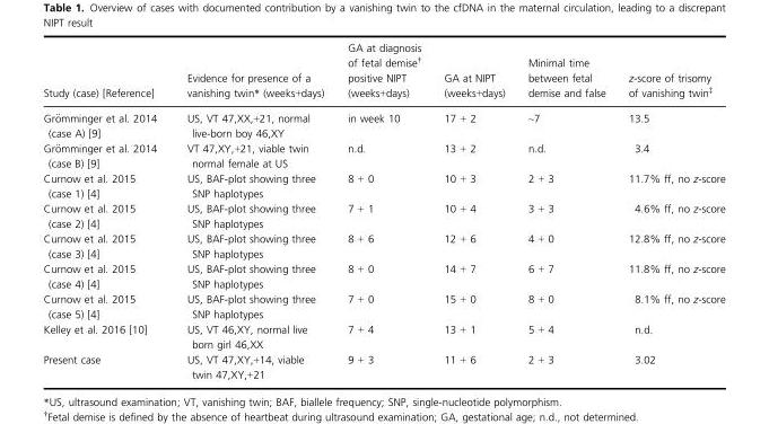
<table><thead><tr><td>Study (case) [Reference]</td><td>Evidence for presence of a vanishing twin* (weeks+days)</td><td>GA at diagnosis of fetal demise† positive NIPT (weeks+days)</td><td>GA at NIPT (weeks+days)</td><td>Minimal time between fetal demise and false</td><td>z-score of trisomy of vanishing twin‡</td></tr></thead><tbody><tr><td>Gr€omminger et al. 2014 (case A) [9]</td><td>US, VT 47,XX,+21, normal live-born boy 46,XY</td><td>in week 10</td><td>17 + 2</td><td>~7</td><td>13.5</td></tr><tr><td>Gr€omminger et al. 2014 (case B) [9]</td><td>VT 47,XY,+21, viable twin normal female at US</td><td>n.d.</td><td>13 + 2</td><td>n.d.</td><td>3.4</td></tr><tr><td>Curnow et al. 2015 (case 1) [4]</td><td>US, BAF-plot showing three SNP haplotypes</td><td>8 + 0</td><td>10 + 3</td><td>2 + 3</td><td>11.7% ff, no z-score</td></tr><tr><td>Curnow et al. 2015 (case 2) [4]</td><td>US, BAF-plot showing three SNP haplotypes</td><td>7 + 1</td><td>10 + 4</td><td>3 + 3</td><td>4.6% ff, no z-score</td></tr><tr><td>Curnow et al. 2015 (case 3) [4]</td><td>US, BAF-plot showing three SNP haplotypes</td><td>8 + 6</td><td>12 + 6</td><td>4 + 0</td><td>12.8% ff, no z-score</td></tr><tr><td>Curnow et al. 2015 (case 4) [4]</td><td>US, BAF-plot showing three SNP haplotypes</td><td>8 + 0</td><td>14 + 7</td><td>6 + 7</td><td>11.8% ff, no z-score</td></tr><tr><td>Curnow et al. 2015 (case 5) [4]</td><td>US, BAF-plot showing three SNP haplotypes</td><td>7 + 0</td><td>15 + 0</td><td>8 + 0</td><td>8.1% ff, no z-score</td></tr><tr><td>Kelley et al. 2016 [10]</td><td>US, VT 46,XY, normal live born girl 46,XX</td><td>7 + 4</td><td>13 + 1</td><td>5 + 4</td><td>n.d.</td></tr><tr><td>Present case</td><td>US, VT 47,XY,+14, viable twin 47,XY,+21</td><td>9 + 3</td><td>11 + 6</td><td>2 + 3</td><td>3.02</td></tr></tbody></table>